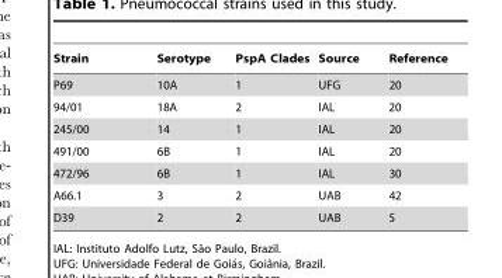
<table><thead><tr><td>Strain</td><td>Serotype</td><td>PspA Clades</td><td>Source</td><td>Reference</td></tr></thead><tbody><tr><td>P69</td><td>10A</td><td>1</td><td>UFG</td><td>20</td></tr><tr><td>94/01</td><td>18A</td><td>2</td><td>IAL</td><td>20</td></tr><tr><td>245/00</td><td>14</td><td>1</td><td>IAL</td><td>20</td></tr><tr><td>491/00</td><td>6B</td><td>1</td><td>IAL</td><td>20</td></tr><tr><td>472/96</td><td>6B</td><td>1</td><td>IAL</td><td>30</td></tr><tr><td>A66.1</td><td>3</td><td>2</td><td>UAB</td><td>42</td></tr><tr><td>D39</td><td>2</td><td>2</td><td>UAB</td><td>5</td></tr></tbody></table>